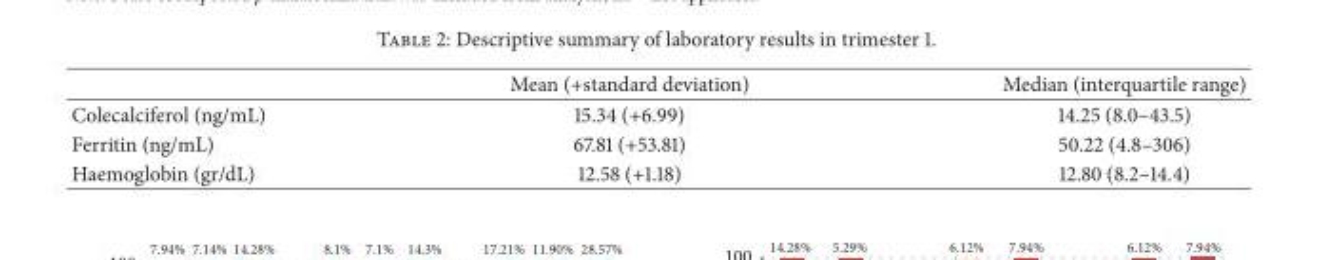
<table><thead><tr><td></td><td>Mean (+standard deviation)</td><td>Median (interquartile range)</td></tr></thead><tbody><tr><td>Colecalciferol (ng/mL)</td><td>15.34 (+6.99)</td><td>14.25 (8.0–43.5)</td></tr><tr><td>Ferritin (ng/mL)</td><td>67.81 (+53.81)</td><td>50.22 (4.8–306)</td></tr><tr><td>Haemoglobin (gr/dL)</td><td>12.58 (+1.18)</td><td>12.80 (8.2–14.4)</td></tr></tbody></table>